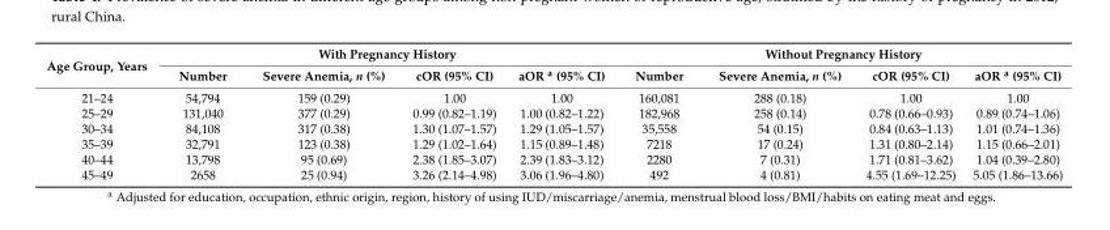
<table><thead><tr><td rowspan="2">Age Group, Years</td><td colspan="4">With Pregnancy History</td><td colspan="4">Without Pregnancy History</td></tr><tr><td>Number</td><td>Severe Anemia, n (%)</td><td>cOR (95% CI)</td><td>aOR <sup>a</sup> (95% CI)</td><td>Number</td><td>Severe Anemia, n (%)</td><td>cOR (95% CI)</td><td>aOR <sup>a</sup> (95% CI)</td></tr></thead><tbody><tr><td>21–24</td><td>54,794</td><td>159 (0.29)</td><td>1.00</td><td>1.00</td><td>160,081</td><td>288 (0.18)</td><td>1.00</td><td>1.00</td></tr><tr><td>25–29</td><td>131,040</td><td>377 (0.29)</td><td>0.99 (0.82–1.19)</td><td>1.00 (0.82–1.22)</td><td>182,968</td><td>258 (0.14)</td><td>0.78 (0.66–0.93)</td><td>0.89 (0.74–1.06)</td></tr><tr><td>30–34</td><td>84,108</td><td>317 (0.38)</td><td>1.30 (1.07–1.57)</td><td>1.29 (1.05–1.57)</td><td>35,558</td><td>54 (0.15)</td><td>0.84 (0.63–1.13)</td><td>1.01 (0.74–1.36)</td></tr><tr><td>35–39</td><td>32,791</td><td>123 (0.38)</td><td>1.29 (1.02–1.64)</td><td>1.15 (0.89–1.48)</td><td>7218</td><td>17 (0.24)</td><td>1.31 (0.80–2.14)</td><td>1.15 (0.66–2.01)</td></tr><tr><td>40–44</td><td>13,798</td><td>95 (0.69)</td><td>2.38 (1.85–3.07)</td><td>2.39 (1.83–3.12)</td><td>2280</td><td>7 (0.31)</td><td>1.71 (0.81–3.62)</td><td>1.04 (0.39–2.80)</td></tr><tr><td>45–49</td><td>2658</td><td>25 (0.94)</td><td>3.26 (2.14–4.98)</td><td>3.06 (1.96–4.80)</td><td>492</td><td>4 (0.81)</td><td>4.55 (1.69–12.25)</td><td>5.05 (1.86–13.66)</td></tr></tbody></table>